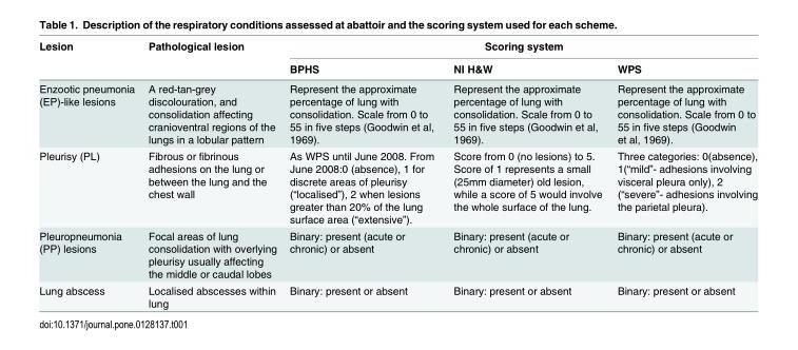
<table><thead><tr><td rowspan="2">Lesion</td><td rowspan="2">Pathological lesion</td><td colspan="3">Scoring system</td></tr><tr><td>BPHS</td><td>NI H&amp;W</td><td>WPS</td></tr></thead><tbody><tr><td>Enzootic pneumonia (EP)-like lesions</td><td>A red-tan-grey discolouration, and consolidation affecting cranioventral regions of the lungs in a lobular pattern</td><td>Represent the approximate percentage of lung with consolidation. Scale from 0 to 55 in five steps (Goodwin et al, 1969).</td><td>Represent the approximate percentage of lung with consolidation. Scale from 0 to 55 in five steps (Goodwin et al, 1969).</td><td>Represent the approximate percentage of lung with consolidation. Scale from 0 to 55 in five steps (Goodwin et al, 1969).</td></tr><tr><td>Pleurisy (PL)</td><td>Fibrous or fibrinous adhesions on the lung or between the lung and the chest wall</td><td>As WPS until June 2008. From June 2008:0 (absence), 1 for discrete areas of pleurisy (“localised”), 2 when lesions greater than 20% of the lung surface area (“extensive”).</td><td>Score from 0 (no lesions) to 5. Score of 1 represents a small (25mm diameter) old lesion, while a score of 5 would involve the whole surface of the lung.</td><td>Three categories: 0(absence), 1(“mild”- adhesions involving visceral pleura only), 2 (“severe”- adhesions involving the parietal pleura).</td></tr><tr><td>Pleuropneumonia (PP) lesions</td><td>Focal areas of lung consolidation with overlying pleurisy usually affecting the middle or caudal lobes</td><td>Binary: present (acute or chronic) or absent</td><td>Binary: present (acute or chronic) or absent</td><td>Binary: present (acute or chronic) or absent</td></tr><tr><td>Lung abscess</td><td>Localised abscesses within lung</td><td>Binary: present or absent</td><td>Binary: present or absent</td><td>Binary: present or absent</td></tr></tbody></table>